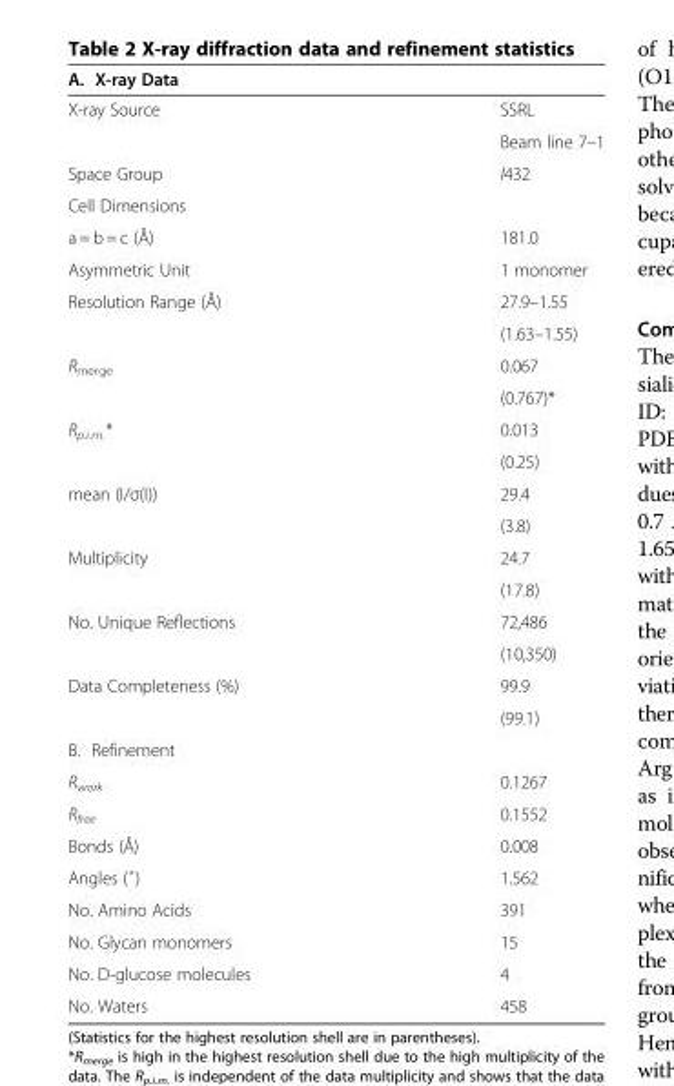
<table><thead><tr><td>A. X-ray Data</td><td></td></tr></thead><tbody><tr><td rowspan="2">X-ray Source</td><td>SSRL</td></tr><tr><td>Beam line 7–1</td></tr><tr><td>Space Group</td><td>I432</td></tr><tr><td colspan="2">Cell Dimensions</td></tr><tr><td>a = b = c (Å)</td><td>181.0</td></tr><tr><td>Asymmetric Unit</td><td>1 monomer</td></tr><tr><td rowspan="2">Resolution Range (Å)</td><td>27.9–1.55</td></tr><tr><td>(1.63–1.55)</td></tr><tr><td rowspan="2">R<sub>merge</sub></td><td>0.067</td></tr><tr><td>(0.767)*</td></tr><tr><td rowspan="2">R<sub>p.i.m.</sub>*</td><td>0.013</td></tr><tr><td>(0.25)</td></tr><tr><td rowspan="2">mean (I/σ(I))</td><td>29.4</td></tr><tr><td>(3.8)</td></tr><tr><td rowspan="2">Multiplicity</td><td>24.7</td></tr><tr><td>(17.8)</td></tr><tr><td rowspan="2">No. Unique Reflections</td><td>72,486</td></tr><tr><td>(10,350)</td></tr><tr><td rowspan="2">Data Completeness (%)</td><td>99.9</td></tr><tr><td>(99.1)</td></tr><tr><td colspan="2">B. Refinement</td></tr><tr><td>R<sub>work</sub></td><td>0.1267</td></tr><tr><td>R<sub>free</sub></td><td>0.1552</td></tr><tr><td>Bonds (Å)</td><td>0.008</td></tr><tr><td>Angles (˚)</td><td>1.562</td></tr><tr><td>No. Amino Acids</td><td>391</td></tr><tr><td>No. Glycan monomers</td><td>15</td></tr><tr><td>No. D-glucose molecules</td><td>4</td></tr><tr><td>No. Waters</td><td>458</td></tr></tbody></table>